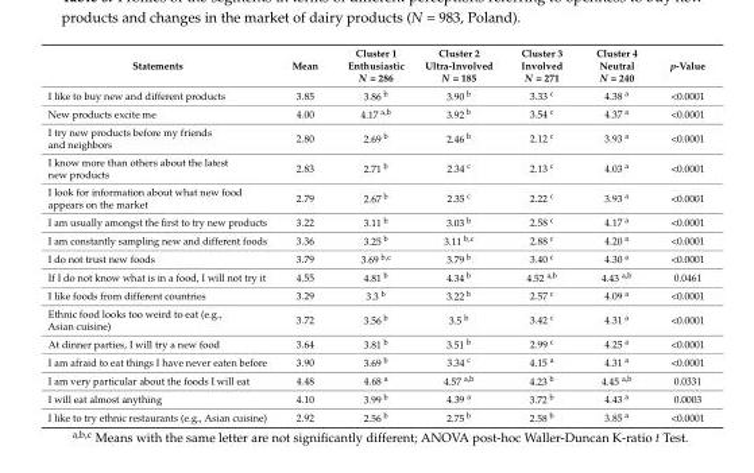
<table><thead><tr><td>Statements</td><td>Mean</td><td>Cluster 1 Enthusiastic N = 286</td><td>Cluster 2 Ultra-Involved N = 185</td><td>Cluster 3 Involved N = 271</td><td>Cluster 4 Neutral N = 240</td><td>p-Value</td></tr></thead><tbody><tr><td>I like to buy new and different products</td><td>3.85</td><td>3.86 <sup>b</sup></td><td>3.90 <sup>b</sup></td><td>3.33 <sup>c</sup></td><td>4.38 <sup>a</sup></td><td>&lt;0.0001</td></tr><tr><td>New products excite me</td><td>4.00</td><td>4.17 <sup>a,b</sup></td><td>3.92 <sup>b</sup></td><td>3.54 <sup>c</sup></td><td>4.37 <sup>a</sup></td><td>&lt;0.0001</td></tr><tr><td>I try new products before my friends and neighbors</td><td>2.80</td><td>2.69 <sup>b</sup></td><td>2.46 <sup>b</sup></td><td>2.12 <sup>c</sup></td><td>3.93 <sup>a</sup></td><td>&lt;0.0001</td></tr><tr><td>I know more than others about the latest new products</td><td>2.83</td><td>2.71 <sup>b</sup></td><td>2.34 <sup>c</sup></td><td>2.13 <sup>c</sup></td><td>4.03 <sup>a</sup></td><td>&lt;0.0001</td></tr><tr><td>I look for information about what new food appears on the market</td><td>2.79</td><td>2.67 <sup>b</sup></td><td>2.35 <sup>c</sup></td><td>2.22 <sup>c</sup></td><td>3.93 <sup>a</sup></td><td>&lt;0.0001</td></tr><tr><td>I am usually amongst the first to try new products</td><td>3.22</td><td>3.11 <sup>b</sup></td><td>3.03 <sup>b</sup></td><td>2.58 <sup>c</sup></td><td>4.17 <sup>a</sup></td><td>&lt;0.0001</td></tr><tr><td>I am constantly sampling new and different foods</td><td>3.36</td><td>3.25 <sup>b</sup></td><td>3.11 <sup>b,c</sup></td><td>2.88 <sup>c</sup></td><td>4.20 <sup>a</sup></td><td>&lt;0.0001</td></tr><tr><td>I do not trust new foods</td><td>3.79</td><td>3.69 <sup>b,c</sup></td><td>3.79 <sup>b</sup></td><td>3.40 <sup>c</sup></td><td>4.30 <sup>a</sup></td><td>&lt;0.0001</td></tr><tr><td>If I do not know what is in a food, I will not try it</td><td>4.55</td><td>4.81 <sup>b</sup></td><td>4.34 <sup>b</sup></td><td>4.52 <sup>a,b</sup></td><td>4.43 <sup>a,b</sup></td><td>0.0461</td></tr><tr><td>I like foods from different countries</td><td>3.29</td><td>3.3 <sup>b</sup></td><td>3.22 <sup>b</sup></td><td>2.57 <sup>c</sup></td><td>4.09 <sup>a</sup></td><td>&lt;0.0001</td></tr><tr><td>Ethnic food looks too weird to eat (e.g., Asian cuisine)</td><td>3.72</td><td>3.56 <sup>b</sup></td><td>3.5 <sup>b</sup></td><td>3.42 <sup>c</sup></td><td>4.31 <sup>a</sup></td><td>&lt;0.0001</td></tr><tr><td>At dinner parties, I will try a new food</td><td>3.64</td><td>3.81 <sup>b</sup></td><td>3.51 <sup>b</sup></td><td>2.99 <sup>c</sup></td><td>4.25 <sup>a</sup></td><td>&lt;0.0001</td></tr><tr><td>I am afraid to eat things I have never eaten before</td><td>3.90</td><td>3.69 <sup>b</sup></td><td>3.34 <sup>c</sup></td><td>4.15 <sup>a</sup></td><td>4.31 <sup>a</sup></td><td>&lt;0.0001</td></tr><tr><td>I am very particular about the foods I will eat</td><td>4.48</td><td>4.68 <sup>a</sup></td><td>4.57 <sup>a,b</sup></td><td>4.23 <sup>b</sup></td><td>4.45 <sup>a,b</sup></td><td>0.0331</td></tr><tr><td>I will eat almost anything</td><td>4.10</td><td>3.99 <sup>b</sup></td><td>4.39 <sup>a</sup></td><td>3.72 <sup>b</sup></td><td>4.43 <sup>a</sup></td><td>0.0003</td></tr><tr><td>I like to try ethnic restaurants (e.g., Asian cuisine)</td><td>2.92</td><td>2.56 <sup>b</sup></td><td>2.75 <sup>b</sup></td><td>2.58 <sup>b</sup></td><td>3.85 <sup>a</sup></td><td>&lt;0.0001</td></tr></tbody></table>